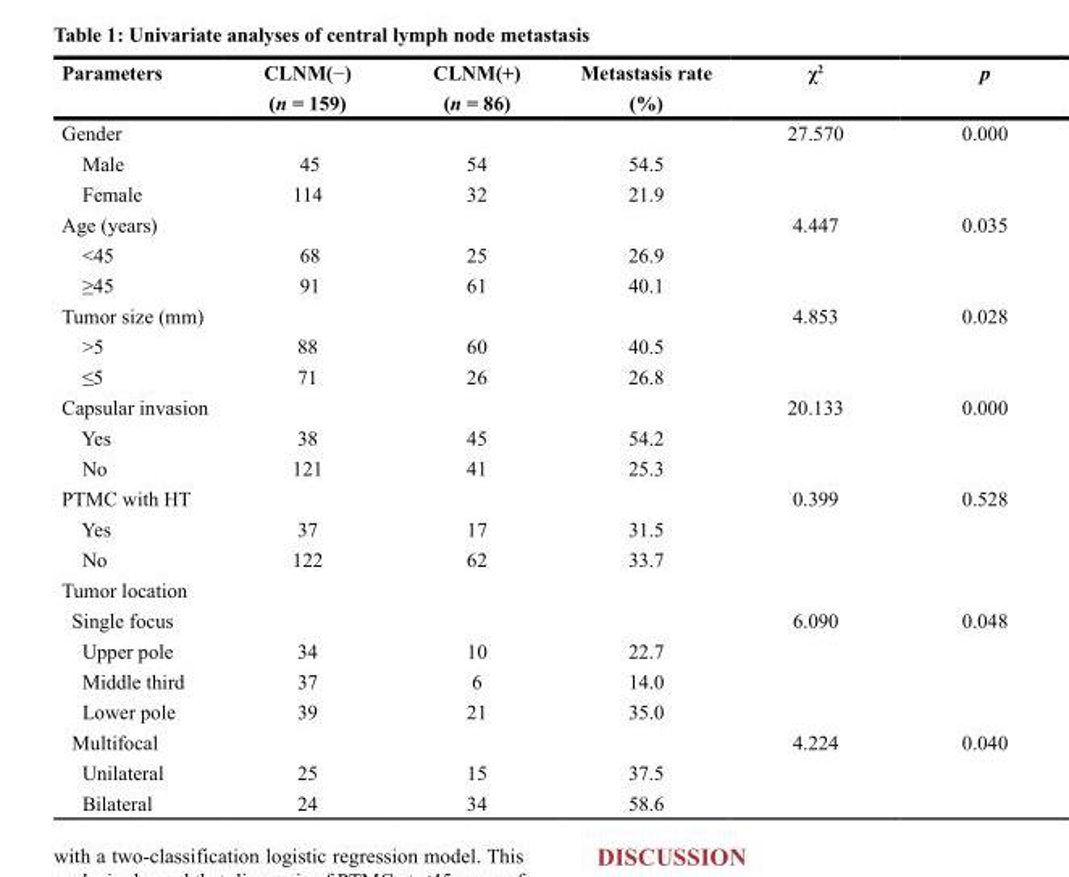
<table><thead><tr><td rowspan="2">Parameters</td><td rowspan="2">CLNM(−) (n = 159)</td><td rowspan="2">CLNM(+) (n = 86)</td><td rowspan="2">Metastasis rate (%)</td><td rowspan="2">χ<sup>2</sup></td><td rowspan="2">p</td></tr><tr></tr></thead><tbody><tr><td>Gender</td><td></td><td></td><td></td><td>27.570</td><td>0.000</td></tr><tr><td>Male</td><td>45</td><td>54</td><td>54.5</td><td></td><td></td></tr><tr><td>Female</td><td>114</td><td>32</td><td>21.9</td><td></td><td></td></tr><tr><td>Age (years)</td><td></td><td></td><td></td><td>4.447</td><td>0.035</td></tr><tr><td>&lt;45</td><td>68</td><td>25</td><td>26.9</td><td></td><td></td></tr><tr><td>≥45</td><td>91</td><td>61</td><td>40.1</td><td></td><td></td></tr><tr><td>Tumor size (mm)</td><td></td><td></td><td></td><td>4.853</td><td>0.028</td></tr><tr><td>&gt;5</td><td>88</td><td>60</td><td>40.5</td><td></td><td></td></tr><tr><td>≤5</td><td>71</td><td>26</td><td>26.8</td><td></td><td></td></tr><tr><td>Capsular invasion</td><td></td><td></td><td></td><td>20.133</td><td>0.000</td></tr><tr><td>Yes</td><td>38</td><td>45</td><td>54.2</td><td></td><td></td></tr><tr><td>No</td><td>121</td><td>41</td><td>25.3</td><td></td><td></td></tr><tr><td>PTMC with HT</td><td></td><td></td><td></td><td>0.399</td><td>0.528</td></tr><tr><td>Yes</td><td>37</td><td>17</td><td>31.5</td><td></td><td></td></tr><tr><td>No</td><td>122</td><td>62</td><td>33.7</td><td></td><td></td></tr><tr><td colspan="6">Tumor location</td></tr><tr><td>Single focus</td><td></td><td></td><td></td><td>6.090</td><td>0.048</td></tr><tr><td>Upper pole</td><td>34</td><td>10</td><td>22.7</td><td></td><td></td></tr><tr><td>Middle third</td><td>37</td><td>6</td><td>14.0</td><td></td><td></td></tr><tr><td>Lower pole</td><td>39</td><td>21</td><td>35.0</td><td></td><td></td></tr><tr><td>Multifocal</td><td></td><td></td><td></td><td>4.224</td><td>0.040</td></tr><tr><td>Unilateral</td><td>25</td><td>15</td><td>37.5</td><td></td><td></td></tr><tr><td>Bilateral</td><td>24</td><td>34</td><td>58.6</td><td></td><td></td></tr></tbody></table>